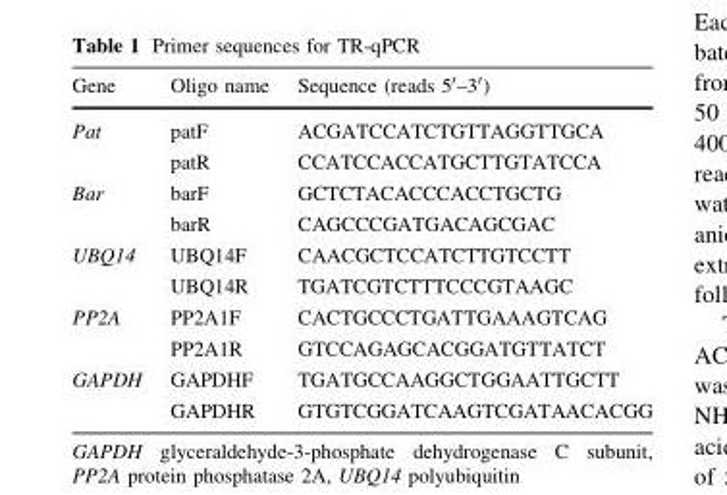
<table><thead><tr><td>Gene</td><td>Oligo name</td><td>Sequence (reads 5′–3′)</td></tr></thead><tbody><tr><td rowspan="2">Pat</td><td>patF</td><td>ACGATCCATCTGTTAGGTTGCA</td></tr><tr><td>patR</td><td>CCATCCACCATGCTTGTATCCA</td></tr><tr><td rowspan="2">Bar</td><td>barF</td><td>GCTCTACACCCACCTGCTG</td></tr><tr><td>barR</td><td>CAGCCCGATGACAGCGAC</td></tr><tr><td rowspan="2">UBQ14</td><td>UBQ14F</td><td>CAACGCTCCATCTTGTCCTT</td></tr><tr><td>UBQ14R</td><td>TGATCGTCTTTCCCGTAAGC</td></tr><tr><td rowspan="2">PP2A</td><td>PP2A1F</td><td>CACTGCCCTGATTGAAAGTCAG</td></tr><tr><td>PP2A1R</td><td>GTCCAGAGCACGGATGTTATCT</td></tr><tr><td rowspan="2">GAPDH</td><td>GAPDHF</td><td>TGATGCCAAGGCTGGAATTGCTT</td></tr><tr><td>GAPDHR</td><td>GTGTCGGATCAAGTCGATAACACGG</td></tr></tbody></table>